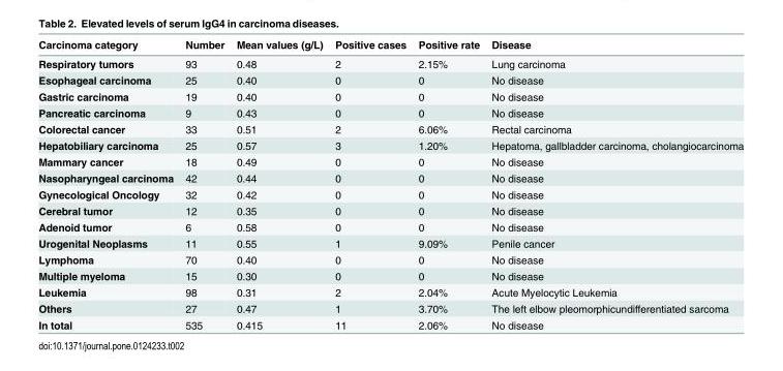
<table><thead><tr><td>Carcinoma category</td><td>Number</td><td>Mean values (g/L)</td><td>Positive cases</td><td>Positive rate</td><td>Disease</td></tr></thead><tbody><tr><td>Respiratory tumors</td><td>93</td><td>0.48</td><td>2</td><td>2.15%</td><td>Lung carcinoma</td></tr><tr><td>Esophageal carcinoma</td><td>25</td><td>0.40</td><td>0</td><td>0</td><td>No disease</td></tr><tr><td>Gastric carcinoma</td><td>19</td><td>0.40</td><td>0</td><td>0</td><td>No disease</td></tr><tr><td>Pancreatic carcinoma</td><td>9</td><td>0.43</td><td>0</td><td>0</td><td>No disease</td></tr><tr><td>Colorectal cancer</td><td>33</td><td>0.51</td><td>2</td><td>6.06%</td><td>Rectal carcinoma</td></tr><tr><td>Hepatobiliary carcinoma</td><td>25</td><td>0.57</td><td>3</td><td>1.20%</td><td>Hepatoma, gallbladder carcinoma, cholangiocarcinoma</td></tr><tr><td>Mammary cancer</td><td>18</td><td>0.49</td><td>0</td><td>0</td><td>No disease</td></tr><tr><td>Nasopharyngeal carcinoma</td><td>42</td><td>0.44</td><td>0</td><td>0</td><td>No disease</td></tr><tr><td>Gynecological Oncology</td><td>32</td><td>0.42</td><td>0</td><td>0</td><td>No disease</td></tr><tr><td>Cerebral tumor</td><td>12</td><td>0.35</td><td>0</td><td>0</td><td>No disease</td></tr><tr><td>Adenoid tumor</td><td>6</td><td>0.58</td><td>0</td><td>0</td><td>No disease</td></tr><tr><td>Urogenital Neoplasms</td><td>11</td><td>0.55</td><td>1</td><td>9.09%</td><td>Penile cancer</td></tr><tr><td>Lymphoma</td><td>70</td><td>0.40</td><td>0</td><td>0</td><td>No disease</td></tr><tr><td>Multiple myeloma</td><td>15</td><td>0.30</td><td>0</td><td>0</td><td>No disease</td></tr><tr><td>Leukemia</td><td>98</td><td>0.31</td><td>2</td><td>2.04%</td><td>Acute Myelocytic Leukemia</td></tr><tr><td>Others</td><td>27</td><td>0.47</td><td>1</td><td>3.70%</td><td>The left elbow pleomorphicundifferentiated sarcoma</td></tr><tr><td>In total</td><td>535</td><td>0.415</td><td>11</td><td>2.06%</td><td>No disease</td></tr></tbody></table>